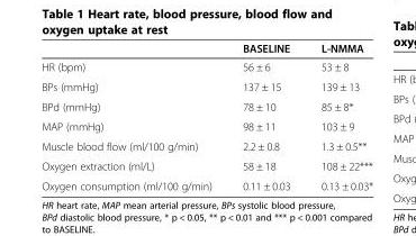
<table><thead><tr><td></td><td>BASELINE</td><td>L-NMMA</td></tr></thead><tbody><tr><td>HR (bpm)</td><td>56 ± 6</td><td>53 ± 8</td></tr><tr><td>BPs (mmHg)</td><td>137 ± 15</td><td>139 ± 13</td></tr><tr><td>BPd (mmHg)</td><td>78 ± 10</td><td>85 ± 8*</td></tr><tr><td>MAP (mmHg)</td><td>98 ± 11</td><td>103 ± 9</td></tr><tr><td>Muscle blood flow (ml/100 g/min)</td><td>2.2 ± 0.8</td><td>1.3 ± 0.5**</td></tr><tr><td>Oxygen extraction (ml/L)</td><td>58 ± 18</td><td>108 ± 22***</td></tr><tr><td>Oxygen consumption (ml/100 g/min)</td><td>0.11 ± 0.03</td><td>0.13 ± 0.03*</td></tr></tbody></table>